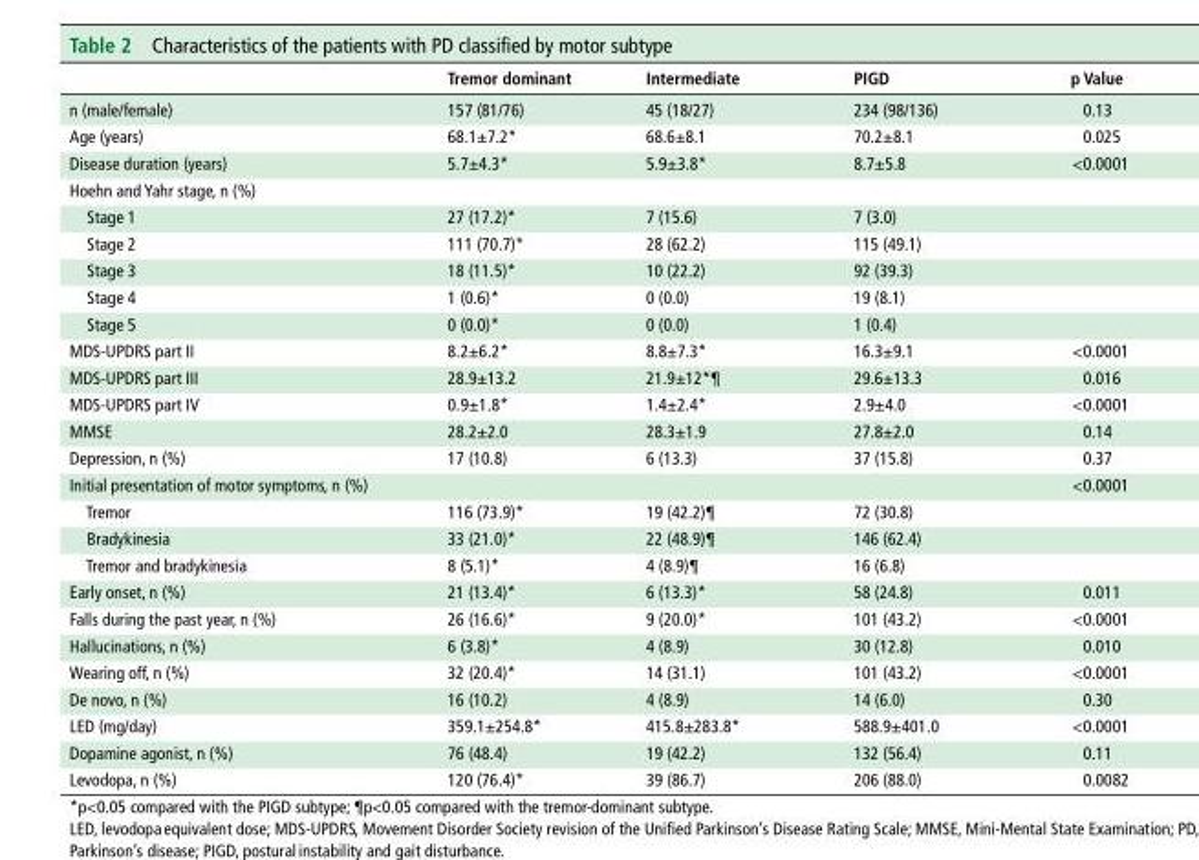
<table><thead><tr><td></td><td>tremor dominant</td><td>Intermediate</td><td>PIGd</td><td>p Value</td></tr></thead><tbody><tr><td>n (male/female)</td><td>157 (81/76)</td><td>45 (18/27)</td><td>234 (98/136)</td><td>0.13</td></tr><tr><td>Age (years)</td><td>68.1±7.2*</td><td>68.6±8.1</td><td>70.2±8.1</td><td>0.025</td></tr><tr><td>Disease duration (years)</td><td>5.7±4.3*</td><td>5.9±3.8*</td><td>8.7±5.8</td><td>&lt;0.0001</td></tr><tr><td colspan="5">Hoehn and Yahr stage, n (%)</td></tr><tr><td>Stage 1</td><td>27 (17.2)*</td><td>7 (15.6)</td><td>7 (3.0)</td><td></td></tr><tr><td>Stage 2</td><td>111 (70.7)*</td><td>28 (62.2)</td><td>115 (49.1)</td><td></td></tr><tr><td>Stage 3</td><td>18 (11.5)*</td><td>10 (22.2)</td><td>92 (39.3)</td><td></td></tr><tr><td>Stage 4</td><td>1 (0.6)*</td><td>0 (0.0)</td><td>19 (8.1)</td><td></td></tr><tr><td>Stage 5</td><td>0 (0.0)*</td><td>0 (0.0)</td><td>1 (0.4)</td><td></td></tr><tr><td>MDS-UPDRS part II</td><td>8.2±6.2*</td><td>8.8±7.3*</td><td>16.3±9.1</td><td>&lt;0.0001</td></tr><tr><td>MDS-UPDRS part III</td><td>28.9±13.2</td><td>21.9±12*¶</td><td>29.6±13.3</td><td>0.016</td></tr><tr><td>MDS-UPDRS part IV</td><td>0.9±1.8*</td><td>1.4±2.4*</td><td>2.9±4.0</td><td>&lt;0.0001</td></tr><tr><td>MMSE</td><td>28.2±2.0</td><td>28.3±1.9</td><td>27.8±2.0</td><td>0.14</td></tr><tr><td>Depression, n (%)</td><td>17 (10.8)</td><td>6 (13.3)</td><td>37 (15.8)</td><td>0.37</td></tr><tr><td>Initial presentation of motor symptoms, n (%)</td><td></td><td></td><td></td><td>&lt;0.0001</td></tr><tr><td>Tremor</td><td>116 (73.9)*</td><td>19 (42.2)¶</td><td>72 (30.8)</td><td></td></tr><tr><td>Bradykinesia</td><td>33 (21.0)*</td><td>22 (48.9)¶</td><td>146 (62.4)</td><td></td></tr><tr><td>Tremor and bradykinesia</td><td>8 (5.1)*</td><td>4 (8.9)¶</td><td>16 (6.8)</td><td></td></tr><tr><td>Early onset, n (%)</td><td>21 (13.4)*</td><td>6 (13.3)*</td><td>58 (24.8)</td><td>0.011</td></tr><tr><td>Falls during the past year, n (%)</td><td>26 (16.6)*</td><td>9 (20.0)*</td><td>101 (43.2)</td><td>&lt;0.0001</td></tr><tr><td>Hallucinations, n (%)</td><td>6 (3.8)*</td><td>4 (8.9)</td><td>30 (12.8)</td><td>0.010</td></tr><tr><td>Wearing off, n (%)</td><td>32 (20.4)*</td><td>14 (31.1)</td><td>101 (43.2)</td><td>&lt;0.0001</td></tr><tr><td>De novo, n (%)</td><td>16 (10.2)</td><td>4 (8.9)</td><td>14 (6.0)</td><td>0.30</td></tr><tr><td>LED (mg/day)</td><td>359.1±254.8*</td><td>415.8±283.8*</td><td>588.9±401.0</td><td>&lt;0.0001</td></tr><tr><td>Dopamine agonist, n (%)</td><td>76 (48.4)</td><td>19 (42.2)</td><td>132 (56.4)</td><td>0.11</td></tr><tr><td>Levodopa, n (%)</td><td>120 (76.4)*</td><td>39 (86.7)</td><td>206 (88.0)</td><td>0.0082</td></tr></tbody></table>